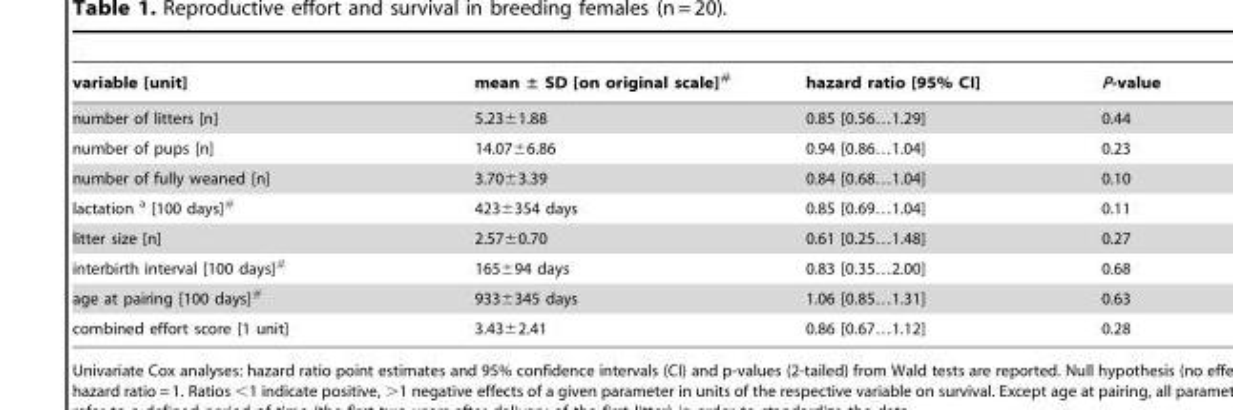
<table><thead><tr><td>variable [unit]</td><td>mean ± SD [on original scale]#</td><td>hazard ratio [95% CI]</td><td>P-value</td></tr></thead><tbody><tr><td>number of litters [n]</td><td>5.23±1.88</td><td>0.85 [0.56…1.29]</td><td>0.44</td></tr><tr><td>number of pups [n]</td><td>14.07±6.86</td><td>0.94 [0.86…1.04]</td><td>0.23</td></tr><tr><td>number of fully weaned [n]</td><td>3.70±3.39</td><td>0.84 [0.68…1.04]</td><td>0.10</td></tr><tr><td>lactation a [100 days]#</td><td>423±354 days</td><td>0.85 [0.69…1.04]</td><td>0.11</td></tr><tr><td>litter size [n]</td><td>2.57±0.70</td><td>0.61 [0.25…1.48]</td><td>0.27</td></tr><tr><td>interbirth interval [100 days]#</td><td>165±94 days</td><td>0.83 [0.35…2.00]</td><td>0.68</td></tr><tr><td>age at pairing [100 days]#</td><td>933±345 days</td><td>1.06 [0.85…1.31]</td><td>0.63</td></tr><tr><td>combined effort score [1 unit]</td><td>3.43±2.41</td><td>0.86 [0.67…1.12]</td><td>0.28</td></tr></tbody></table>